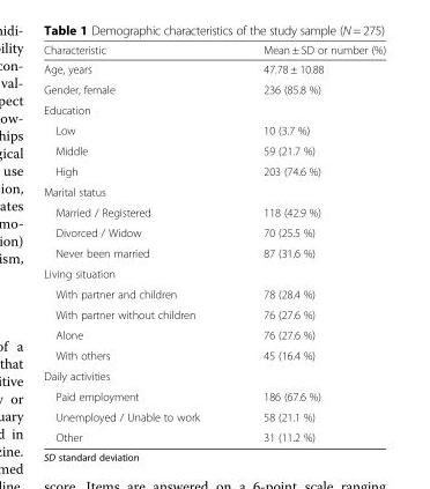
<table><thead><tr><td>Characteristic</td><td>Mean ± SD or number (%)</td></tr></thead><tbody><tr><td>Age, years</td><td>47.78 ± 10.88</td></tr><tr><td>Gender, female</td><td>236 (85.8 %)</td></tr><tr><td colspan="2">Education</td></tr><tr><td>Low</td><td>10 (3.7 %)</td></tr><tr><td>Middle</td><td>59 (21.7 %)</td></tr><tr><td>High</td><td>203 (74.6 %)</td></tr><tr><td colspan="2">Marital status</td></tr><tr><td>Married / Registered</td><td>118 (42.9 %)</td></tr><tr><td>Divorced / Widow</td><td>70 (25.5 %)</td></tr><tr><td>Never been married</td><td>87 (31.6 %)</td></tr><tr><td colspan="2">Living situation</td></tr><tr><td>With partner and children</td><td>78 (28.4 %)</td></tr><tr><td>With partner without children</td><td>76 (27.6 %)</td></tr><tr><td>Alone</td><td>76 (27.6 %)</td></tr><tr><td>With others</td><td>45 (16.4 %)</td></tr><tr><td colspan="2">Daily activities</td></tr><tr><td>Paid employment</td><td>186 (67.6 %)</td></tr><tr><td>Unemployed / Unable to work</td><td>58 (21.1 %)</td></tr><tr><td>Other</td><td>31 (11.2 %)</td></tr></tbody></table>